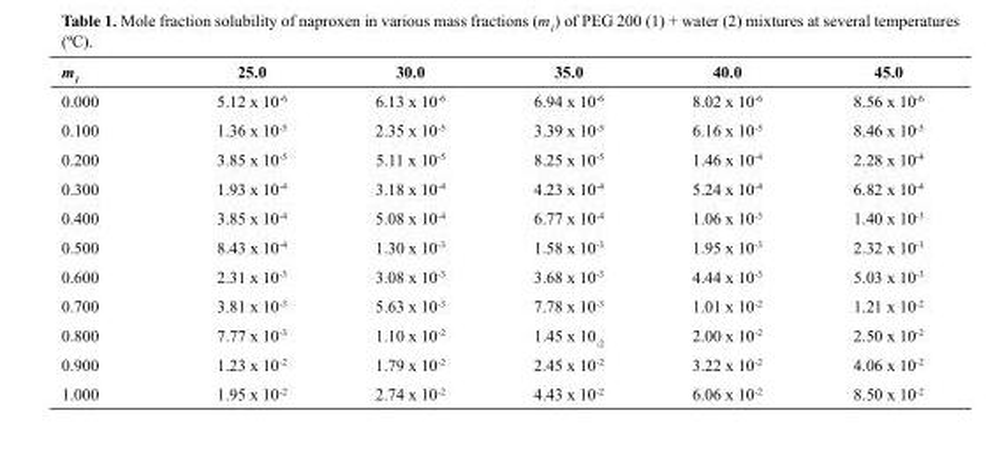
<table><thead><tr><td>m<sub>1</sub></td><td>25.0</td><td>30.0</td><td>35.0</td><td>40.0</td><td>45.0</td></tr></thead><tbody><tr><td>0.000</td><td>5.12 x 10<sup>-6</sup></td><td>6.13 x 10<sup>-6</sup></td><td>6.94 x 10<sup>-6</sup></td><td>8.02 x 10<sup>-6</sup></td><td>8.56 x 10<sup>-6</sup></td></tr><tr><td>0.100</td><td>1.36 x 10<sup>-5</sup></td><td>2.35 x 10<sup>-5</sup></td><td>3.39 x 10<sup>-5</sup></td><td>6.16 x 10<sup>-5</sup></td><td>8.46 x 10<sup>-5</sup></td></tr><tr><td>0.200</td><td>3.85 x 10<sup>-5</sup></td><td>5.11 x 10<sup>-5</sup></td><td>8.25 x 10<sup>-5</sup></td><td>1.46 x 10<sup>-4</sup></td><td>2.28 x 10<sup>-4</sup></td></tr><tr><td>0.300</td><td>1.93 x 10<sup>-4</sup></td><td>3.18 x 10<sup>-4</sup></td><td>4.23 x 10<sup>-4</sup></td><td>5.24 x 10<sup>-4</sup></td><td>6.82 x 10<sup>-4</sup></td></tr><tr><td>0.400</td><td>3.85 x 10<sup>-4</sup></td><td>5.08 x 10<sup>-4</sup></td><td>6.77 x 10<sup>-4</sup></td><td>1.06 x 10<sup>-3</sup></td><td>1.40 x 10<sup>-3</sup></td></tr><tr><td>0.500</td><td>8.43 x 10<sup>-4</sup></td><td>1.30 x 10<sup>-3</sup></td><td>1.58 x 10<sup>-3</sup></td><td>1.95 x 10<sup>-3</sup></td><td>2.32 x 10<sup>-3</sup></td></tr><tr><td>0.600</td><td>2.31 x 10<sup>-3</sup></td><td>3.08 x 10<sup>-3</sup></td><td>3.68 x 10<sup>-3</sup></td><td>4.44 x 10<sup>-3</sup></td><td>5.03 x 10<sup>-3</sup></td></tr><tr><td>0.700</td><td>3.81 x 10<sup>-3</sup></td><td>5.63 x 10<sup>-3</sup></td><td>7.78 x 10<sup>-3</sup></td><td>1.01 x 10<sup>-2</sup></td><td>1.21 x 10<sup>-2</sup></td></tr><tr><td>0.800</td><td>7.77 x 10<sup>-3</sup></td><td>1.10 x 10<sup>-2</sup></td><td>1.45 x 10<sub>-2</sub></td><td>2.00 x 10<sup>-2</sup></td><td>2.50 x 10<sup>-2</sup></td></tr><tr><td>0.900</td><td>1.23 x 10<sup>-2</sup></td><td>1.79 x 10<sup>-2</sup></td><td>2.45 x 10<sup>-2</sup></td><td>3.22 x 10<sup>-2</sup></td><td>4.06 x 10<sup>-2</sup></td></tr><tr><td>1.000</td><td>1.95 x 10<sup>-2</sup></td><td>2.74 x 10<sup>-2</sup></td><td>4.43 x 10<sup>-2</sup></td><td>6.06 x 10<sup>-2</sup></td><td>8.50 x 10<sup>-2</sup></td></tr></tbody></table>